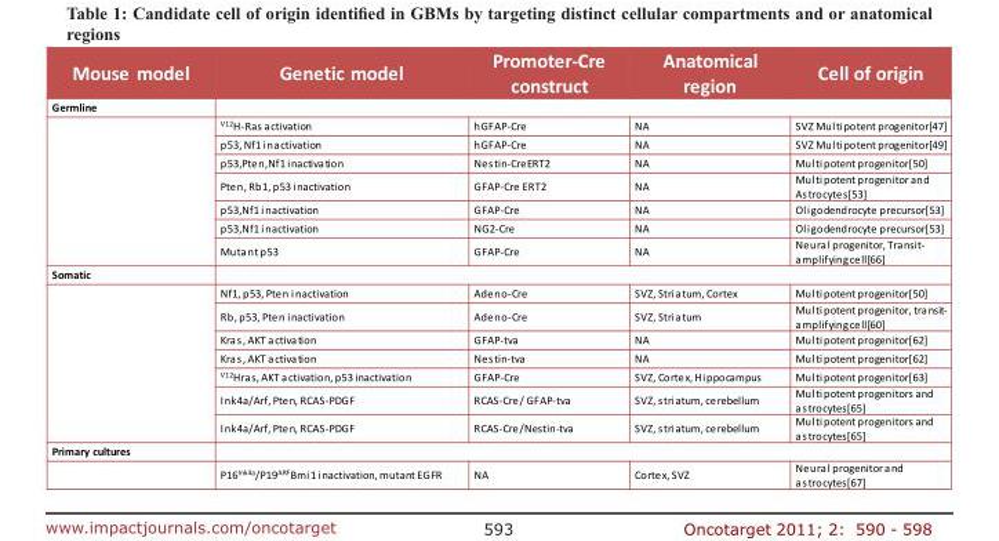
<table><thead><tr><td>Mouse model</td><td>Genetic model</td><td>Promoter-Cre construct</td><td>Anatomical region</td><td>Cell of origin</td></tr></thead><tbody><tr><td colspan="5">Germline</td></tr><tr><td rowspan="7"></td><td><sup>V12</sup>H-Ras activation</td><td>hGFAP-Cre</td><td>NA</td><td>SVZ Multipotent progenitor[47]</td></tr><tr><td>p53, Nf1 inactivation</td><td>hGFAP-Cre</td><td>NA</td><td>SVZ Multipotent progenitor[49]</td></tr><tr><td>p53,Pten,Nf1 inactivation</td><td>Nestin-CreERT2</td><td>NA</td><td>Multipotent progenitor[50]</td></tr><tr><td>Pten, Rb1, p53 inactivation</td><td>GFAP-Cre ERT2</td><td>NA</td><td>Multipotent progenitor and Astrocytes[53]</td></tr><tr><td>p53,Nf1 inactivation</td><td>GFAP-Cre</td><td>NA</td><td>Oligodendrocyte precursor[53]</td></tr><tr><td>p53,Nf1 inactivation</td><td>NG2-Cre</td><td>NA</td><td>Oligodendrocyte precursor[53]</td></tr><tr><td>Mutant p53</td><td>GFAP-Cre</td><td>NA</td><td>Neural progenitor, Transit- amplifying cell[66]</td></tr><tr><td colspan="5">Somatic</td></tr><tr><td rowspan="7"></td><td>Nf1, p53, Pten inactivation</td><td>Adeno-Cre</td><td>SVZ, Striatum, Cortex</td><td>Multipotent progenitor[50]</td></tr><tr><td>Rb, p53, Pten inactivation</td><td>Adeno-Cre</td><td>SVZ, Striatum</td><td>Multipotent progenitor, transit- amplifying cell[60]</td></tr><tr><td>Kras, AKT activation</td><td>GFAP-tva</td><td>NA</td><td>Multipotent progenitor[62]</td></tr><tr><td>Kras, AKT activation</td><td>Nestin-tva</td><td>NA</td><td>Multipotent progenitor[62]</td></tr><tr><td><sup>V12</sup>Hras, AKT activation, p53 inactivation</td><td>GFAP-Cre</td><td>SVZ, Cortex, Hippocampus</td><td>Multipotent progenitor[63]</td></tr><tr><td>Ink4a/Arf, Pten, RCAS-PDGF</td><td>RCAS-Cre/ GFAP-tva</td><td>SVZ, striatum, cerebellum</td><td>Multipotent progenitors and astrocytes[65]</td></tr><tr><td>Ink4a/Arf, Pten, RCAS-PDGF</td><td>RCAS-Cre/Nestin-tva</td><td>SVZ, striatum, cerebellum</td><td>Multipotent progenitors and astrocytes[65]</td></tr><tr><td colspan="5">Primary cultures</td></tr><tr><td></td><td>P16<sup>Ink4a</sup>/P19<sup>ARF</sup>Bmi1 inactivation, mutant EGFR</td><td>NA</td><td>Cortex, SVZ</td><td>Neural progenitor and astrocytes[67]</td></tr></tbody></table>